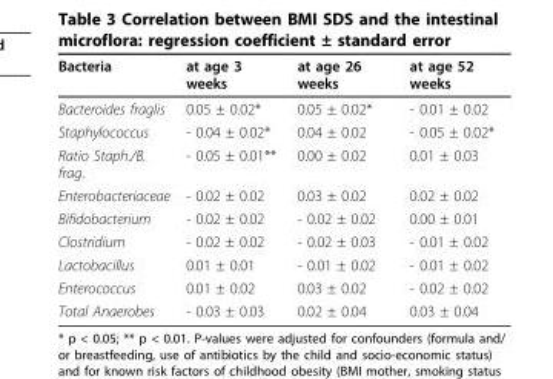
<table><thead><tr><td>Bacteria</td><td>at age 3 weeks</td><td>at age 26 weeks</td><td>at age 52 weeks</td></tr></thead><tbody><tr><td>Bacteroides fraglis</td><td>0.05 ± 0.02*</td><td>0.05 ± 0.02*</td><td>- 0.01 ± 0.02</td></tr><tr><td>Staphylococcus</td><td>- 0.04 ± 0.02*</td><td>0.04 ± 0.02</td><td>- 0.05 ± 0.02*</td></tr><tr><td>Ratio Staph./B. frag.</td><td>- 0.05 ± 0.01**</td><td>0.00 ± 0.02</td><td>0.01 ± 0.03</td></tr><tr><td>Enterobacteriaceae</td><td>- 0.02 ± 0.02</td><td>0.03 ± 0.02</td><td>0.02 ± 0.02</td></tr><tr><td>Bifidobacterium</td><td>- 0.02 ± 0.02</td><td>- 0.02 ± 0.02</td><td>0.00 ± 0.01</td></tr><tr><td>Clostridium</td><td>- 0.02 ± 0.02</td><td>- 0.02 ± 0.03</td><td>- 0.01 ± 0.02</td></tr><tr><td>Lactobacillus</td><td>0.01 ± 0.01</td><td>- 0.01 ± 0.02</td><td>- 0.01 ± 0.02</td></tr><tr><td>Enterococcus</td><td>0.01 ± 0.02</td><td>0.03 ± 0.02</td><td>- 0.02 ± 0.02</td></tr><tr><td>Total Anaerobes</td><td>- 0.03 ± 0.03</td><td>0.02 ± 0.04</td><td>0.03 ± 0.04</td></tr></tbody></table>